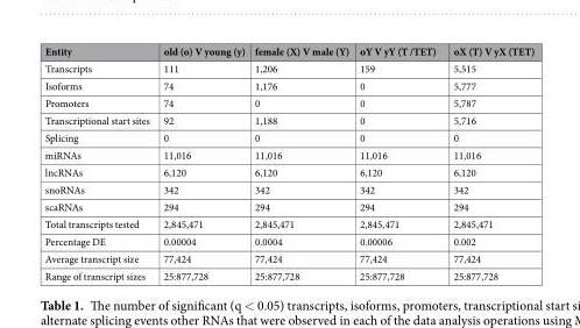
<table><thead><tr><td>Entity</td><td>old (o) V young (y)</td><td>female (X) V male (Y)</td><td>oY V yY (T /TET)</td><td>oX (T) V yX (TET)</td></tr></thead><tbody><tr><td>Transcripts</td><td>111</td><td>1,206</td><td>159</td><td>5,515</td></tr><tr><td>Isoforms</td><td>74</td><td>1,176</td><td>0</td><td>5,777</td></tr><tr><td>Promoters</td><td>74</td><td>0</td><td>0</td><td>5,787</td></tr><tr><td>Transcriptional start sites</td><td>92</td><td>1,188</td><td>0</td><td>5,716</td></tr><tr><td>Splicing</td><td>0</td><td>0</td><td>0</td><td>0</td></tr><tr><td>miRNAs</td><td>11,016</td><td>11,016</td><td>11,016</td><td>11,016</td></tr><tr><td>lncRNAs</td><td>6,120</td><td>6,120</td><td>6,120</td><td>6,120</td></tr><tr><td>snoRNAs</td><td>342</td><td>342</td><td>342</td><td>342</td></tr><tr><td>scaRNAs</td><td>294</td><td>294</td><td>294</td><td>294</td></tr><tr><td>Total transcripts tested</td><td>2,845,471</td><td>2,845,471</td><td>2,845,471</td><td>2,845,471</td></tr><tr><td>Percentage DE</td><td>0.00004</td><td>0.0004</td><td>0.00006</td><td>0.002</td></tr><tr><td>Average transcript size</td><td>77,424</td><td>77,424</td><td>77,424</td><td>77,424</td></tr><tr><td>Range of transcript sizes</td><td>25:877,728</td><td>25:877,728</td><td>25:877,728</td><td>25:877,728</td></tr></tbody></table>